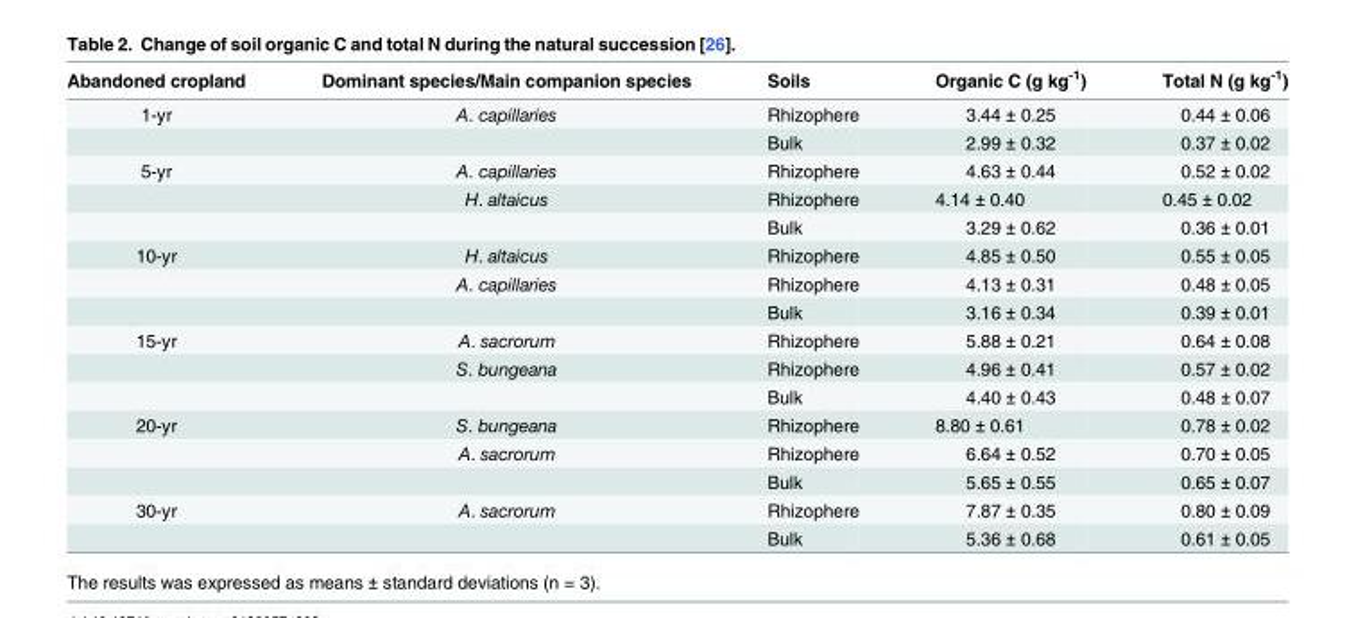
<table><thead><tr><td>Abandoned cropland</td><td>Dominant species/Main companion species</td><td>Soils</td><td>Organic C (g kg<sup>-1</sup>)</td><td>Total N (g kg<sup>-1</sup>)</td></tr></thead><tbody><tr><td rowspan="2">1-yr</td><td>A. capillaries</td><td>Rhizophere</td><td>3.44 ± 0.25</td><td>0.44 ± 0.06</td></tr><tr><td></td><td>Bulk</td><td>2.99 ± 0.32</td><td>0.37 ± 0.02</td></tr><tr><td rowspan="3">5-yr</td><td>A. capillaries</td><td>Rhizophere</td><td>4.63 ± 0.44</td><td>0.52 ± 0.02</td></tr><tr><td>H. altaicus</td><td>Rhizophere</td><td>4.14 ± 0.40</td><td>0.45 ± 0.02</td></tr><tr><td></td><td>Bulk</td><td>3.29 ± 0.62</td><td>0.36 ± 0.01</td></tr><tr><td rowspan="3">10-yr</td><td>H. altaicus</td><td>Rhizophere</td><td>4.85 ± 0.50</td><td>0.55 ± 0.05</td></tr><tr><td>A. capillaries</td><td>Rhizophere</td><td>4.13 ± 0.31</td><td>0.48 ± 0.05</td></tr><tr><td></td><td>Bulk</td><td>3.16 ± 0.34</td><td>0.39 ± 0.01</td></tr><tr><td rowspan="3">15-yr</td><td>A. sacrorum</td><td>Rhizophere</td><td>5.88 ± 0.21</td><td>0.64 ± 0.08</td></tr><tr><td>S. bungeana</td><td>Rhizophere</td><td>4.96 ± 0.41</td><td>0.57 ± 0.02</td></tr><tr><td></td><td>Bulk</td><td>4.40 ± 0.43</td><td>0.48 ± 0.07</td></tr><tr><td rowspan="3">20-yr</td><td>S. bungeana</td><td>Rhizophere</td><td>8.80 ± 0.61</td><td>0.78 ± 0.02</td></tr><tr><td>A. sacrorum</td><td>Rhizophere</td><td>6.64 ± 0.52</td><td>0.70 ± 0.05</td></tr><tr><td></td><td>Bulk</td><td>5.65 ± 0.55</td><td>0.65 ± 0.07</td></tr><tr><td rowspan="2">30-yr</td><td>A. sacrorum</td><td>Rhizophere</td><td>7.87 ± 0.35</td><td>0.80 ± 0.09</td></tr><tr><td></td><td>Bulk</td><td>5.36 ± 0.68</td><td>0.61 ± 0.05</td></tr></tbody></table>